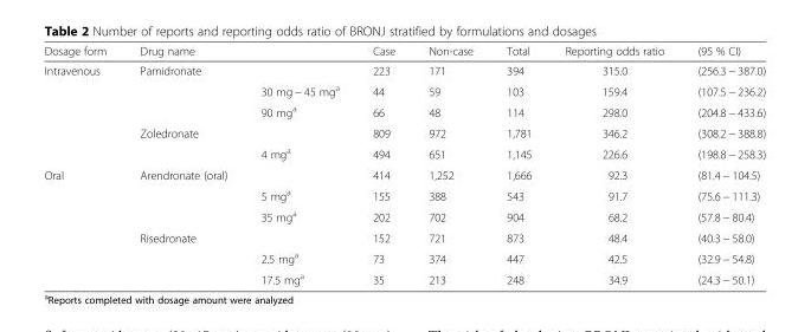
<table><thead><tr><td rowspan="2">Dosage form Intravenous</td><td colspan="2">Drug name</td><td rowspan="2">Case 223</td><td rowspan="2">Non-case 171</td><td rowspan="2">Total 394</td><td rowspan="2">Reporting odds ratio 315.0</td><td rowspan="2">(95 % CI) (256.3 − 387.0)</td></tr><tr><td>Pamidronate</td><td></td></tr></thead><tbody><tr><td></td><td></td><td>30 mg − 45 mg<sup>a</sup></td><td>44</td><td>59</td><td>103</td><td>159.4</td><td>(107.5 − 236.2)</td></tr><tr><td></td><td></td><td>90 mg<sup>a</sup></td><td>66</td><td>48</td><td>114</td><td>298.0</td><td>(204.8 − 433.6)</td></tr><tr><td></td><td>Zoledronate</td><td></td><td>809</td><td>972</td><td>1,781</td><td>346.2</td><td>(308.2 − 388.8)</td></tr><tr><td></td><td></td><td>4 mg<sup>a</sup></td><td>494</td><td>651</td><td>1,145</td><td>226.6</td><td>(198.8 − 258.3)</td></tr><tr><td rowspan="6">Oral</td><td>Arendronate (oral)</td><td></td><td>414</td><td>1,252</td><td>1,666</td><td>92.3</td><td>(81.4 − 104.5)</td></tr><tr><td></td><td>5 mg<sup>a</sup></td><td>155</td><td>388</td><td>543</td><td>91.7</td><td>(75.6 − 111.3)</td></tr><tr><td></td><td>35 mg<sup>a</sup></td><td>202</td><td>702</td><td>904</td><td>68.2</td><td>(57.8 − 80.4)</td></tr><tr><td>Risedronate</td><td></td><td>152</td><td>721</td><td>873</td><td>48.4</td><td>(40.3 − 58.0)</td></tr><tr><td></td><td>2.5 mg<sup>a</sup></td><td>73</td><td>374</td><td>447</td><td>42.5</td><td>(32.9 − 54.8)</td></tr><tr><td></td><td>17.5 mg<sup>a</sup></td><td>35</td><td>213</td><td>248</td><td>34.9</td><td>(24.3 − 50.1)</td></tr></tbody></table>